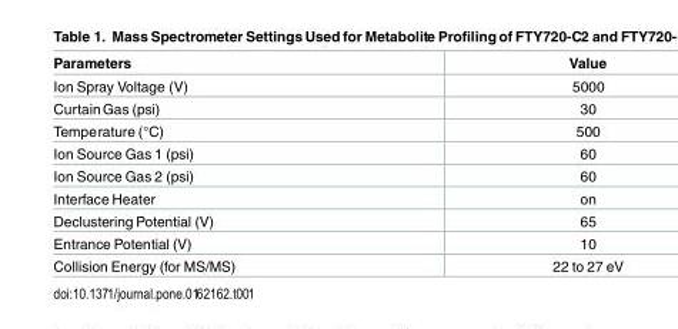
<table><thead><tr><td>Parameters</td><td>Value</td></tr></thead><tbody><tr><td>Ion Spray Voltage (V)</td><td>5000</td></tr><tr><td>CurtainGas (psi)</td><td>30</td></tr><tr><td>Temperature (°C)</td><td>500</td></tr><tr><td>Ion Source Gas 1 (psi)</td><td>60</td></tr><tr><td>Ion Source Gas 2 (psi)</td><td>60</td></tr><tr><td>Interface Heater</td><td>on</td></tr><tr><td>Declustering Potential (V)</td><td>65</td></tr><tr><td>Entrance Potential (V)</td><td>10</td></tr><tr><td>Collision Energy (for MS/MS)</td><td>22 to 27 eV</td></tr></tbody></table>